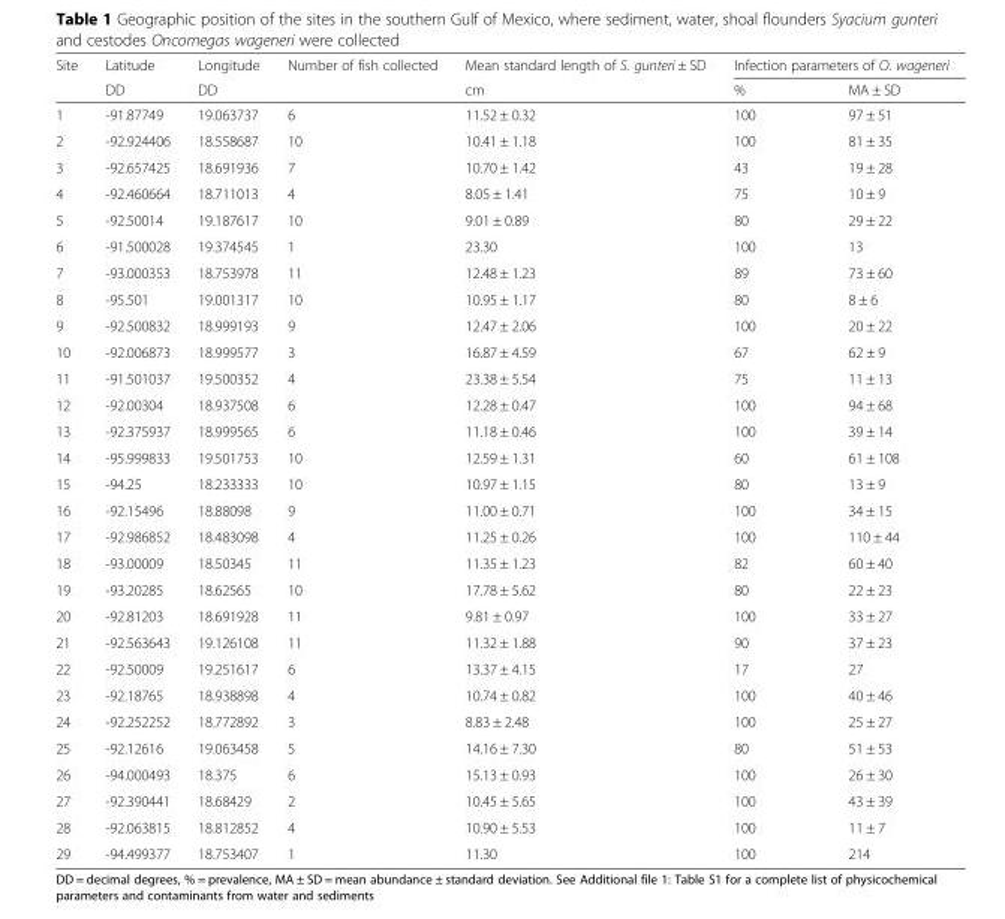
<table><thead><tr><td rowspan="2">Site</td><td rowspan="2">Latitude DD</td><td rowspan="2">Longitude DD</td><td rowspan="2">Number of fish collected</td><td rowspan="2">Mean standard length of S. gunteri ± SD cm</td><td colspan="2">Infection parameters of O. wageneri</td></tr><tr><td>%</td><td>MA ± SD</td></tr></thead><tbody><tr><td>1</td><td>-91.87749</td><td>19.063737</td><td>6</td><td>11.52 ± 0.32</td><td>100</td><td>97 ± 51</td></tr><tr><td>2</td><td>-92.924406</td><td>18.558687</td><td>10</td><td>10.41 ± 1.18</td><td>100</td><td>81 ± 35</td></tr><tr><td>3</td><td>-92.657425</td><td>18.691936</td><td>7</td><td>10.70 ± 1.42</td><td>43</td><td>19 ± 28</td></tr><tr><td>4</td><td>-92.460664</td><td>18.711013</td><td>4</td><td>8.05 ± 1.41</td><td>75</td><td>10 ± 9</td></tr><tr><td>5</td><td>-92.50014</td><td>19.187617</td><td>10</td><td>9.01 ± 0.89</td><td>80</td><td>29 ± 22</td></tr><tr><td>6</td><td>-91.500028</td><td>19.374545</td><td>1</td><td>23.30</td><td>100</td><td>13</td></tr><tr><td>7</td><td>-93.000353</td><td>18.753978</td><td>11</td><td>12.48 ± 1.23</td><td>89</td><td>73 ± 60</td></tr><tr><td>8</td><td>-95.501</td><td>19.001317</td><td>10</td><td>10.95 ± 1.17</td><td>80</td><td>8 ± 6</td></tr><tr><td>9</td><td>-92.500832</td><td>18.999193</td><td>9</td><td>12.47 ± 2.06</td><td>100</td><td>20 ± 22</td></tr><tr><td>10</td><td>-92.006873</td><td>18.999577</td><td>3</td><td>16.87 ± 4.59</td><td>67</td><td>62 ± 9</td></tr><tr><td>11</td><td>-91.501037</td><td>19.500352</td><td>4</td><td>23.38 ± 5.54</td><td>75</td><td>11 ± 13</td></tr><tr><td>12</td><td>-92.00304</td><td>18.937508</td><td>6</td><td>12.28 ± 0.47</td><td>100</td><td>94 ± 68</td></tr><tr><td>13</td><td>-92.375937</td><td>18.999565</td><td>6</td><td>11.18 ± 0.46</td><td>100</td><td>39 ± 14</td></tr><tr><td>14</td><td>-95.999833</td><td>19.501753</td><td>10</td><td>12.59 ± 1.31</td><td>60</td><td>61 ± 108</td></tr><tr><td>15</td><td>-94.25</td><td>18.233333</td><td>10</td><td>10.97 ± 1.15</td><td>80</td><td>13 ± 9</td></tr><tr><td>16</td><td>-92.15496</td><td>18.88098</td><td>9</td><td>11.00 ± 0.71</td><td>100</td><td>34 ± 15</td></tr><tr><td>17</td><td>-92.986852</td><td>18.483098</td><td>4</td><td>11.25 ± 0.26</td><td>100</td><td>110 ± 44</td></tr><tr><td>18</td><td>-93.00009</td><td>18.50345</td><td>11</td><td>11.35 ± 1.23</td><td>82</td><td>60 ± 40</td></tr><tr><td>19</td><td>-93.20285</td><td>18.62565</td><td>10</td><td>17.78 ± 5.62</td><td>80</td><td>22 ± 23</td></tr><tr><td>20</td><td>-92.81203</td><td>18.691928</td><td>11</td><td>9.81 ± 0.97</td><td>100</td><td>33 ± 27</td></tr><tr><td>21</td><td>-92.563643</td><td>19.126108</td><td>11</td><td>11.32 ± 1.88</td><td>90</td><td>37 ± 23</td></tr><tr><td>22</td><td>-92.50009</td><td>19.251617</td><td>6</td><td>13.37 ± 4.15</td><td>17</td><td>27</td></tr><tr><td>23</td><td>-92.18765</td><td>18.938898</td><td>4</td><td>10.74 ± 0.82</td><td>100</td><td>40 ± 46</td></tr><tr><td>24</td><td>-92.252252</td><td>18.772892</td><td>3</td><td>8.83 ± 2.48</td><td>100</td><td>25 ± 27</td></tr><tr><td>25</td><td>-92.12616</td><td>19.063458</td><td>5</td><td>14.16 ± 7.30</td><td>80</td><td>51 ± 53</td></tr><tr><td>26</td><td>-94.000493</td><td>18.375</td><td>6</td><td>15.13 ± 0.93</td><td>100</td><td>26 ± 30</td></tr><tr><td>27</td><td>-92.390441</td><td>18.68429</td><td>2</td><td>10.45 ± 5.65</td><td>100</td><td>43 ± 39</td></tr><tr><td>28</td><td>-92.063815</td><td>18.812852</td><td>4</td><td>10.90 ± 5.53</td><td>100</td><td>11 ± 7</td></tr><tr><td>29</td><td>-94.499377</td><td>18.753407</td><td>1</td><td>11.30</td><td>100</td><td>214</td></tr></tbody></table>